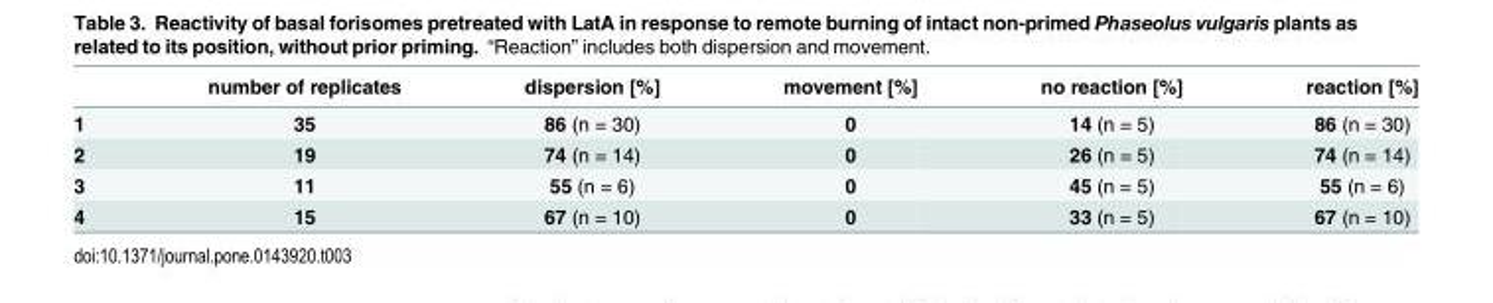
<table><thead><tr><td></td><td>number of replicates</td><td>dispersion [%]</td><td>movement [%]</td><td>no reaction [%]</td><td>reaction [%]</td></tr></thead><tbody><tr><td>1</td><td>35</td><td>86 (n = 30)</td><td>0</td><td>14 (n = 5)</td><td>86 (n = 30)</td></tr><tr><td>2</td><td>19</td><td>74 (n = 14)</td><td>0</td><td>26 (n = 5)</td><td>74 (n = 14)</td></tr><tr><td>3</td><td>11</td><td>55 (n = 6)</td><td>0</td><td>45 (n = 5)</td><td>55 (n = 6)</td></tr><tr><td>4</td><td>15</td><td>67 (n = 10)</td><td>0</td><td>33 (n = 5)</td><td>67 (n = 10)</td></tr></tbody></table>